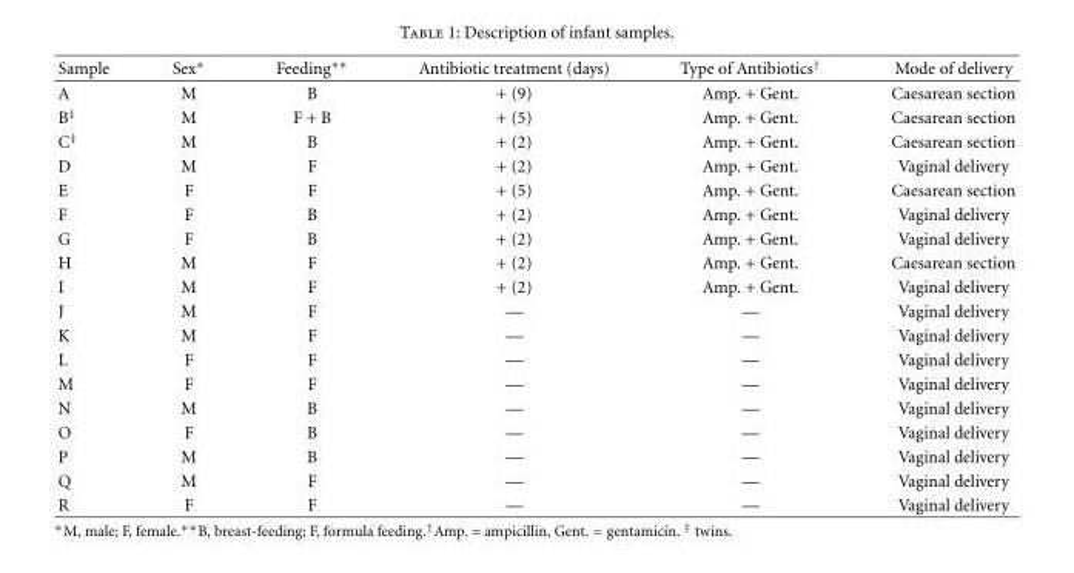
<table><thead><tr><td>Sample</td><td>Sex∗</td><td>Feeding∗∗</td><td>Antibiotic treatment (days)</td><td>Type of Antibiotics<sup>†</sup></td><td>Mode of delivery</td></tr></thead><tbody><tr><td>A</td><td>M</td><td>B</td><td>+ (9)</td><td>Amp. + Gent.</td><td>Caesarean section</td></tr><tr><td>B<sup>‡</sup></td><td>M</td><td>F + B</td><td>+ (5)</td><td>Amp. + Gent.</td><td>Caesarean section</td></tr><tr><td>C<sup>‡</sup></td><td>M</td><td>B</td><td>+ (2)</td><td>Amp. + Gent.</td><td>Caesarean section</td></tr><tr><td>D</td><td>M</td><td>F</td><td>+ (2)</td><td>Amp. + Gent.</td><td>Vaginal delivery</td></tr><tr><td>E</td><td>F</td><td>F</td><td>+ (5)</td><td>Amp. + Gent.</td><td>Caesarean section</td></tr><tr><td>F</td><td>F</td><td>B</td><td>+ (2)</td><td>Amp. + Gent.</td><td>Vaginal delivery</td></tr><tr><td>G</td><td>F</td><td>B</td><td>+ (2)</td><td>Amp. + Gent.</td><td>Vaginal delivery</td></tr><tr><td>H</td><td>M</td><td>F</td><td>+ (2)</td><td>Amp. + Gent.</td><td>Caesarean section</td></tr><tr><td>I</td><td>M</td><td>F</td><td>+ (2)</td><td>Amp. + Gent.</td><td>Vaginal delivery</td></tr><tr><td>J</td><td>M</td><td>F</td><td>—</td><td>—</td><td>Vaginal delivery</td></tr><tr><td>K</td><td>M</td><td>F</td><td>—</td><td>—</td><td>Vaginal delivery</td></tr><tr><td>L</td><td>F</td><td>F</td><td>—</td><td>—</td><td>Vaginal delivery</td></tr><tr><td>M</td><td>F</td><td>F</td><td>—</td><td>—</td><td>Vaginal delivery</td></tr><tr><td>N</td><td>M</td><td>B</td><td>—</td><td>—</td><td>Vaginal delivery</td></tr><tr><td>O</td><td>F</td><td>B</td><td>—</td><td>—</td><td>Vaginal delivery</td></tr><tr><td>P</td><td>M</td><td>B</td><td>—</td><td>—</td><td>Vaginal delivery</td></tr><tr><td>Q</td><td>M</td><td>F</td><td>—</td><td>—</td><td>Vaginal delivery</td></tr><tr><td>R</td><td>F</td><td>F</td><td>—</td><td>—</td><td>Vaginal delivery</td></tr></tbody></table>